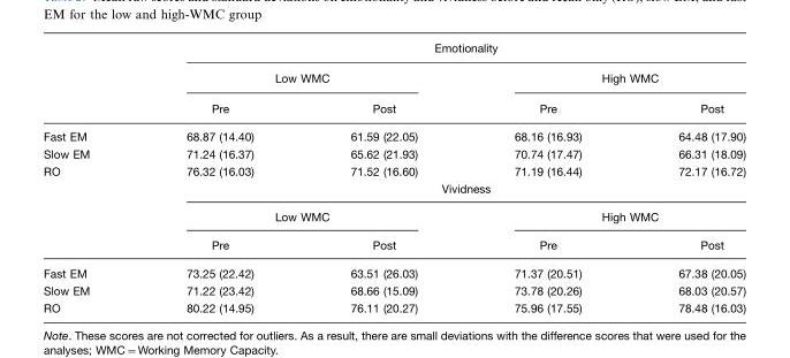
<table><thead><tr><td rowspan="3"></td><td colspan="4">Emotionality</td></tr><tr><td colspan="2">Low WMC</td><td colspan="2">High WMC</td></tr><tr><td>Pre</td><td>Post</td><td>Pre</td><td>Post</td></tr></thead><tbody><tr><td>Fast EM</td><td>68.87 (14.40)</td><td>61.59 (22.05)</td><td>68.16 (16.93)</td><td>64.48 (17.90)</td></tr><tr><td>Slow EM</td><td>71.24 (16.37)</td><td>65.62 (21.93)</td><td>70.74 (17.47)</td><td>66.31 (18.09)</td></tr><tr><td rowspan="4">RO</td><td>76.32 (16.03)</td><td>71.52 (16.60)</td><td>71.19 (16.44)</td><td>72.17 (16.72)</td></tr><tr><td colspan="4">Vividness</td></tr><tr><td colspan="2">Low WMC</td><td colspan="2">High WMC</td></tr><tr><td>Pre</td><td>Post</td><td>Pre</td><td>Post</td></tr><tr><td>Fast EM</td><td>73.25 (22.42)</td><td>63.51 (26.03)</td><td>71.37 (20.51)</td><td>67.38 (20.05)</td></tr><tr><td>Slow EM</td><td>71.22 (23.42)</td><td>68.66 (15.09)</td><td>73.78 (20.26)</td><td>68.03 (20.57)</td></tr><tr><td>RO</td><td>80.22 (14.95)</td><td>76.11 (20.27)</td><td>75.96 (17.55)</td><td>78.48 (16.03)</td></tr></tbody></table>